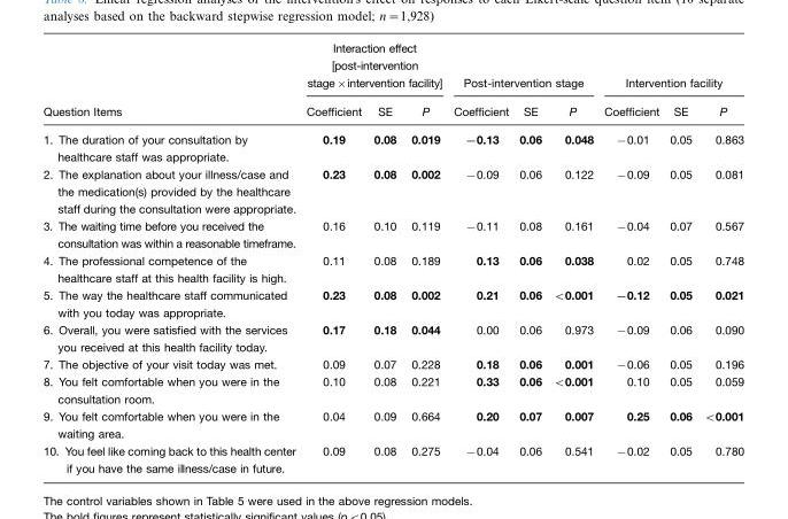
<table><thead><tr><td rowspan="2">Question Items</td><td colspan="3">Interaction effect [post-intervention stage×intervention facility]</td><td colspan="3">Post-intervention stage</td><td colspan="3">Intervention facility</td></tr><tr><td>Coefficient</td><td>SE</td><td>P</td><td>Coefficient</td><td>SE</td><td>P</td><td>Coefficient</td><td>SE</td><td>P</td></tr></thead><tbody><tr><td>1. The duration of your consultation by healthcare staff was appropriate.</td><td>0.19</td><td>0.08</td><td>0.019</td><td>−0.13</td><td>0.06</td><td>0.048</td><td>−0.01</td><td>0.05</td><td>0.863</td></tr><tr><td>2. The explanation about your illness/case and the medication(s) provided by the healthcare staff during the consultation were appropriate.</td><td>0.23</td><td>0.08</td><td>0.002</td><td>−0.09</td><td>0.06</td><td>0.122</td><td>−0.09</td><td>0.05</td><td>0.081</td></tr><tr><td>3. The waiting time before you received the consultation was within a reasonable timeframe.</td><td>0.16</td><td>0.10</td><td>0.119</td><td>−0.11</td><td>0.08</td><td>0.161</td><td>−0.04</td><td>0.07</td><td>0.567</td></tr><tr><td>4. The professional competence of the healthcare staff at this health facility is high.</td><td>0.11</td><td>0.08</td><td>0.189</td><td>0.13</td><td>0.06</td><td>0.038</td><td>0.02</td><td>0.05</td><td>0.748</td></tr><tr><td>5. The way the healthcare staff communicated with you today was appropriate.</td><td>0.23</td><td>0.08</td><td>0.002</td><td>0.21</td><td>0.06</td><td>&lt;0.001</td><td>−0.12</td><td>0.05</td><td>0.021</td></tr><tr><td>6. Overall, you were satisfied with the services you received at this health facility today.</td><td>0.17</td><td>0.18</td><td>0.044</td><td>0.00</td><td>0.06</td><td>0.973</td><td>−0.09</td><td>0.06</td><td>0.090</td></tr><tr><td>7. The objective of your visit today was met.</td><td>0.09</td><td>0.07</td><td>0.228</td><td>0.18</td><td>0.06</td><td>0.001</td><td>−0.06</td><td>0.05</td><td>0.196</td></tr><tr><td>8. You felt comfortable when you were in the consultation room.</td><td>0.10</td><td>0.08</td><td>0.221</td><td>0.33</td><td>0.06</td><td>&lt;0.001</td><td>0.10</td><td>0.05</td><td>0.059</td></tr><tr><td>9. You felt comfortable when you were in the waiting area.</td><td>0.04</td><td>0.09</td><td>0.664</td><td>0.20</td><td>0.07</td><td>0.007</td><td>0.25</td><td>0.06</td><td>&lt;0.001</td></tr><tr><td>10. You feel like coming back to this health center if you have the same illness/case in future.</td><td>0.09</td><td>0.08</td><td>0.275</td><td>−0.04</td><td>0.06</td><td>0.541</td><td>−0.02</td><td>0.05</td><td>0.780</td></tr></tbody></table>